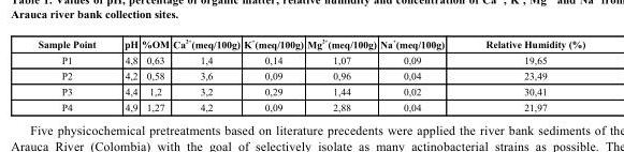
<table><thead><tr><td>Sample Point</td><td>pH</td><td>%OM</td><td>Ca <sup>2+</sup>(meq/100g)</td><td>K <sup>+</sup>(meq/100g)</td><td>Mg <sup>2+</sup>(meq/100g)</td><td>Na <sup>+</sup>(meq/100g)</td><td>Relative Humidity (%)</td></tr></thead><tbody><tr><td>P1</td><td>4,8</td><td>0,63</td><td>1,4</td><td>0,14</td><td>1,07</td><td>0,09</td><td>19,65</td></tr><tr><td>P2</td><td>4,2</td><td>0,58</td><td>3,6</td><td>0,09</td><td>0,96</td><td>0,04</td><td>23,49</td></tr><tr><td>P3</td><td>4,4</td><td>1,2</td><td>3,2</td><td>0,29</td><td>1,44</td><td>0,02</td><td>30,41</td></tr><tr><td>P4</td><td>4,9</td><td>1,27</td><td>4,2</td><td>0,09</td><td>2,88</td><td>0,04</td><td>21,97</td></tr></tbody></table>